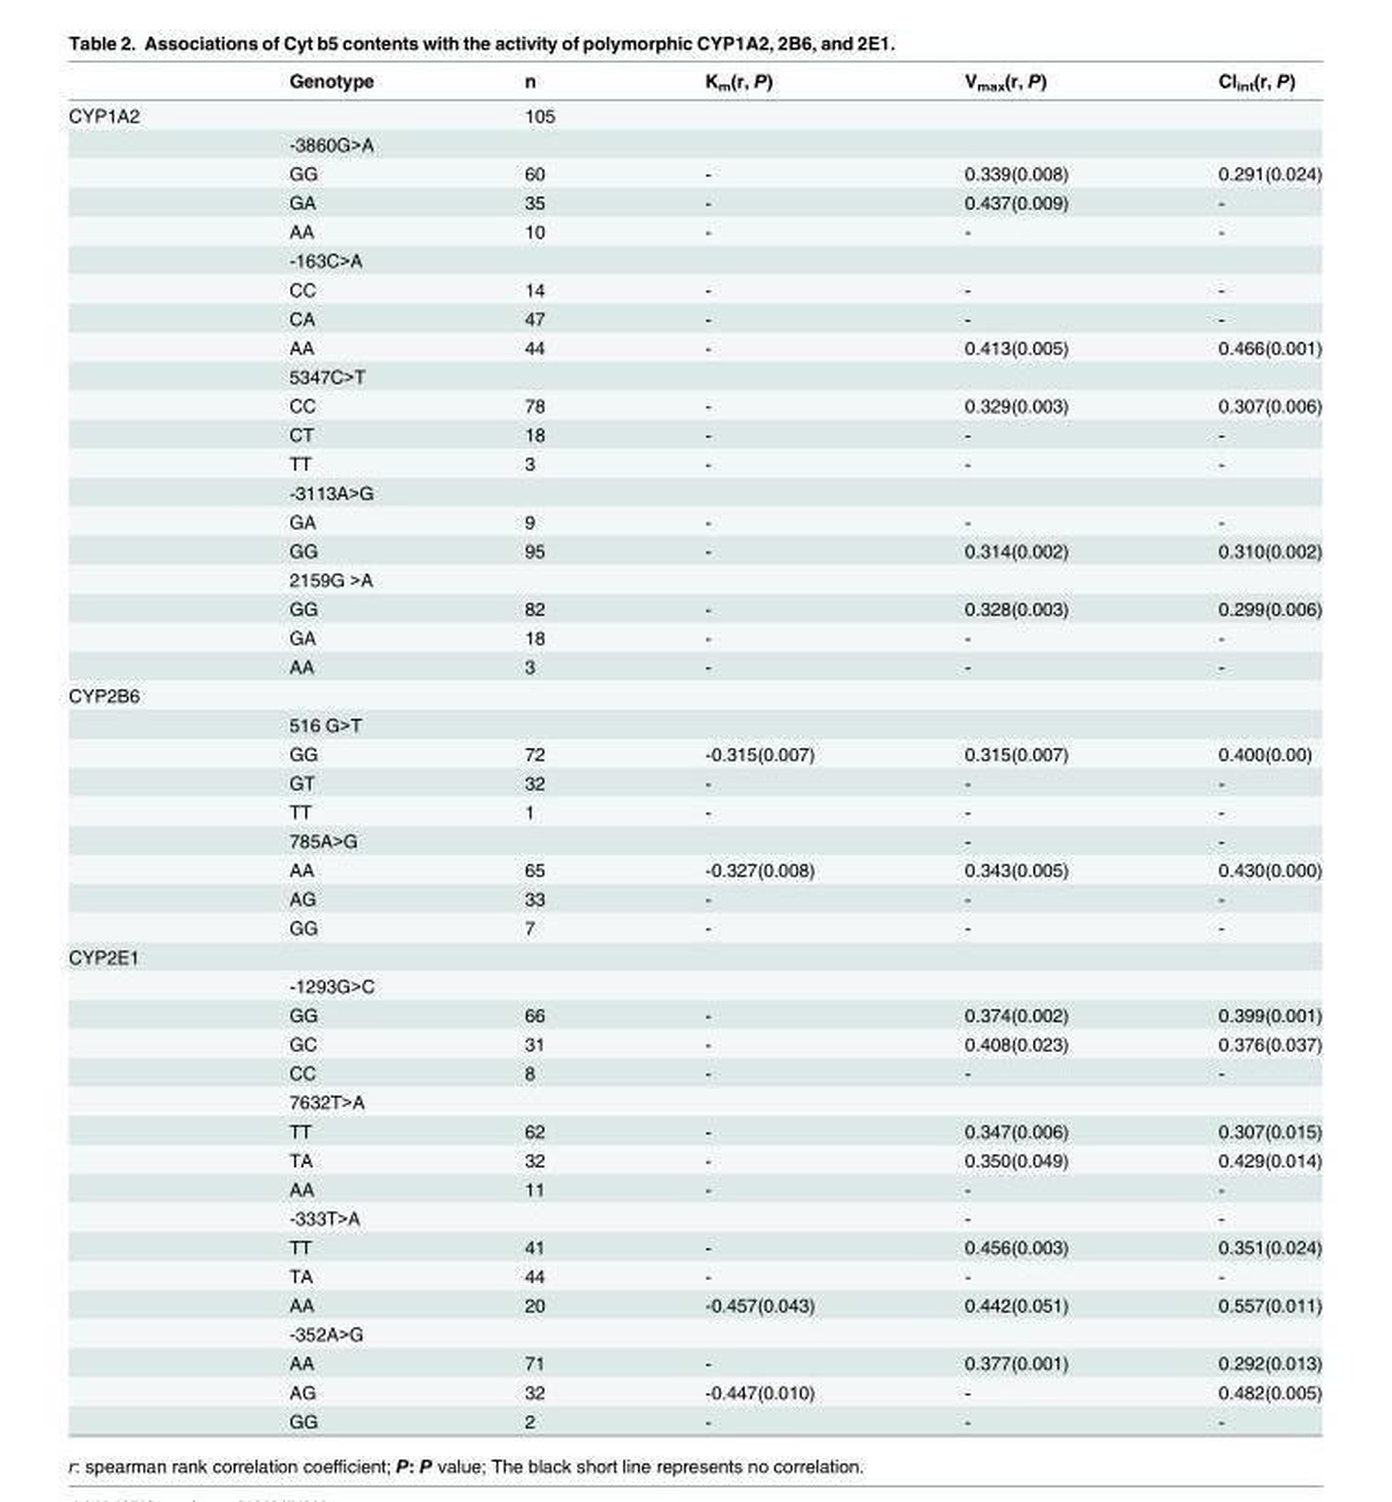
<table><thead><tr><td></td><td>Genotype</td><td>n</td><td>K<sub>m</sub>(r, P)</td><td>V<sub>max</sub>(r, P)</td><td>Cl<sub>int</sub>(r, P)</td></tr></thead><tbody><tr><td rowspan="20">CYP1A2</td><td></td><td>105</td><td></td><td></td><td></td></tr><tr><td>-3860G&gt;A</td><td></td><td></td><td></td><td></td></tr><tr><td>GG</td><td>60</td><td>-</td><td>0.339(0.008)</td><td>0.291(0.024)</td></tr><tr><td>GA</td><td>35</td><td>-</td><td>0.437(0.009)</td><td>-</td></tr><tr><td>AA</td><td>10</td><td>-</td><td>-</td><td>-</td></tr><tr><td>-163C&gt;A</td><td></td><td></td><td></td><td></td></tr><tr><td>CC</td><td>14</td><td>-</td><td>-</td><td>-</td></tr><tr><td>CA</td><td>47</td><td>-</td><td>-</td><td>-</td></tr><tr><td>AA</td><td>44</td><td>-</td><td>0.413(0.005)</td><td>0.466(0.001)</td></tr><tr><td>5347C&gt;T</td><td></td><td></td><td></td><td></td></tr><tr><td>CC</td><td>78</td><td>-</td><td>0.329(0.003)</td><td>0.307(0.006)</td></tr><tr><td>CT</td><td>18</td><td>-</td><td>-</td><td>-</td></tr><tr><td>TT</td><td>3</td><td>-</td><td>-</td><td>-</td></tr><tr><td>-3113A&gt;G</td><td></td><td></td><td></td><td></td></tr><tr><td>GA</td><td>9</td><td>-</td><td>-</td><td>-</td></tr><tr><td>GG</td><td>95</td><td>-</td><td>0.314(0.002)</td><td>0.310(0.002)</td></tr><tr><td>2159G &gt;A</td><td></td><td></td><td></td><td></td></tr><tr><td>GG</td><td>82</td><td>-</td><td>0.328(0.003)</td><td>0.299(0.006)</td></tr><tr><td>GA</td><td>18</td><td>-</td><td>-</td><td>-</td></tr><tr><td>AA</td><td>3</td><td>-</td><td>-</td><td>-</td></tr><tr><td colspan="6">CYP2B6</td></tr><tr><td></td><td>516 G&gt;T</td><td></td><td></td><td></td><td></td></tr><tr><td></td><td>GG</td><td>72</td><td>-0.315(0.007)</td><td>0.315(0.007)</td><td>0.400(0.00)</td></tr><tr><td></td><td>GT</td><td>32</td><td>-</td><td>-</td><td>-</td></tr><tr><td></td><td>TT</td><td>1</td><td>-</td><td>-</td><td>-</td></tr><tr><td></td><td>785A&gt;G</td><td></td><td></td><td>-</td><td>-</td></tr><tr><td></td><td>AA</td><td>65</td><td>-0.327(0.008)</td><td>0.343(0.005)</td><td>0.430(0.000)</td></tr><tr><td></td><td>AG</td><td>33</td><td>-</td><td>-</td><td>-</td></tr><tr><td></td><td>GG</td><td>7</td><td>-</td><td>-</td><td>-</td></tr><tr><td colspan="6">CYP2E1</td></tr><tr><td></td><td>-1293G&gt;C</td><td></td><td></td><td></td><td></td></tr><tr><td></td><td>GG</td><td>66</td><td>-</td><td>0.374(0.002)</td><td>0.399(0.001)</td></tr><tr><td></td><td>GC</td><td>31</td><td>-</td><td>0.408(0.023)</td><td>0.376(0.037)</td></tr><tr><td></td><td>CC</td><td>8</td><td>-</td><td>-</td><td>-</td></tr><tr><td></td><td>7632T&gt;A</td><td></td><td></td><td></td><td></td></tr><tr><td></td><td>TT</td><td>62</td><td>-</td><td>0.347(0.006)</td><td>0.307(0.015)</td></tr><tr><td></td><td>TA</td><td>32</td><td>-</td><td>0.350(0.049)</td><td>0.429(0.014)</td></tr><tr><td></td><td>AA</td><td>11</td><td>-</td><td>-</td><td>-</td></tr><tr><td></td><td>-333T&gt;A</td><td></td><td></td><td>-</td><td>-</td></tr><tr><td></td><td>TT</td><td>41</td><td>-</td><td>0.456(0.003)</td><td>0.351(0.024)</td></tr><tr><td></td><td>TA</td><td>44</td><td>-</td><td>-</td><td>-</td></tr><tr><td></td><td>AA</td><td>20</td><td>-0.457(0.043)</td><td>0.442(0.051)</td><td>0.557(0.011)</td></tr><tr><td></td><td>-352A&gt;G</td><td></td><td></td><td></td><td></td></tr><tr><td></td><td>AA</td><td>71</td><td>-</td><td>0.377(0.001)</td><td>0.292(0.013)</td></tr><tr><td></td><td>AG</td><td>32</td><td>-0.447(0.010)</td><td>-</td><td>0.482(0.005)</td></tr><tr><td></td><td>GG</td><td>2</td><td>-</td><td>-</td><td>-</td></tr></tbody></table>